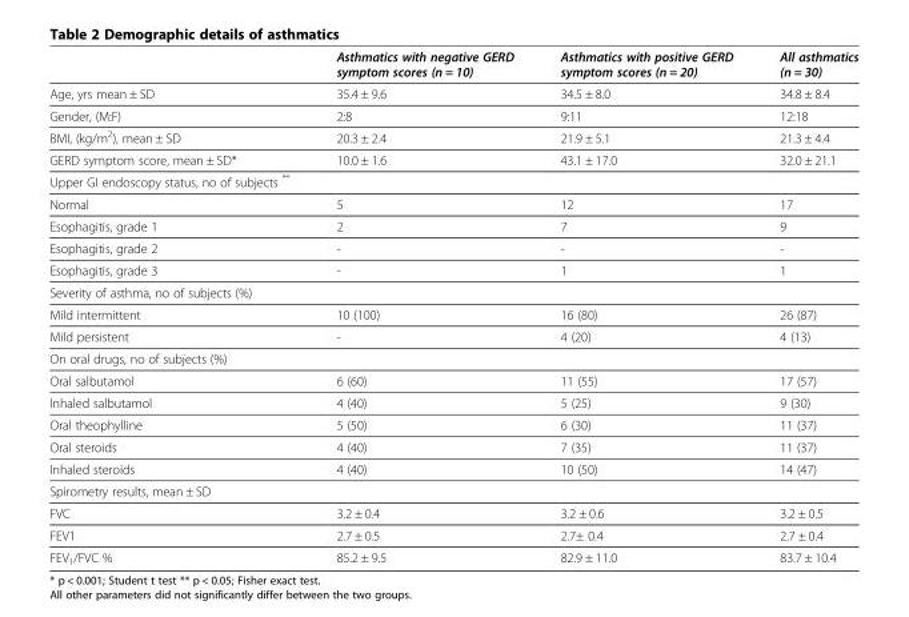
<table><thead><tr><td></td><td>Asthmatics with negative GERD symptom scores (n = 10)</td><td>Asthmatics with positive GERD symptom scores (n = 20)</td><td>All asthmatics (n = 30)</td></tr></thead><tbody><tr><td>Age, yrs mean ± SD</td><td>35.4 ± 9.6</td><td>34.5 ± 8.0</td><td>34.8 ± 8.4</td></tr><tr><td>Gender, (M:F)</td><td>2:8</td><td>9:11</td><td>12:18</td></tr><tr><td>BMI, (kg/m<sup>2</sup>), mean ± SD</td><td>20.3 ± 2.4</td><td>21.9 ± 5.1</td><td>21.3 ± 4.4</td></tr><tr><td>GERD symptom score, mean ± SD*</td><td>10.0 ± 1.6</td><td>43.1 ± 17.0</td><td>32.0 ± 21.1</td></tr><tr><td colspan="4">Upper GI endoscopy status, no of subjects **</td></tr><tr><td>Normal</td><td>5</td><td>12</td><td>17</td></tr><tr><td>Esophagitis, grade 1</td><td>2</td><td>7</td><td>9</td></tr><tr><td>Esophagitis, grade 2</td><td>-</td><td>-</td><td>-</td></tr><tr><td>Esophagitis, grade 3</td><td>-</td><td>1</td><td>1</td></tr><tr><td colspan="4">Severity of asthma, no of subjects (%)</td></tr><tr><td>Mild intermittent</td><td>10 (100)</td><td>16 (80)</td><td>26 (87)</td></tr><tr><td>Mild persistent</td><td>-</td><td>4 (20)</td><td>4 (13)</td></tr><tr><td colspan="4">On oral drugs, no of subjects (%)</td></tr><tr><td>Oral salbutamol</td><td>6 (60)</td><td>11 (55)</td><td>17 (57)</td></tr><tr><td>Inhaled salbutamol</td><td>4 (40)</td><td>5 (25)</td><td>9 (30)</td></tr><tr><td>Oral theophylline</td><td>5 (50)</td><td>6 (30)</td><td>11 (37)</td></tr><tr><td>Oral steroids</td><td>4 (40)</td><td>7 (35)</td><td>11 (37)</td></tr><tr><td>Inhaled steroids</td><td>4 (40)</td><td>10 (50)</td><td>14 (47)</td></tr><tr><td colspan="4">Spirometry results, mean ± SD</td></tr><tr><td>FVC</td><td>3.2 ± 0.4</td><td>3.2 ± 0.6</td><td>3.2 ± 0.5</td></tr><tr><td>FEV1</td><td>2.7 ± 0.5</td><td>2.7± 0.4</td><td>2.7 ± 0.4</td></tr><tr><td>FEV<sub>1</sub>/FVC %</td><td>85.2 ± 9.5</td><td>82.9 ± 11.0</td><td>83.7 ± 10.4</td></tr></tbody></table>